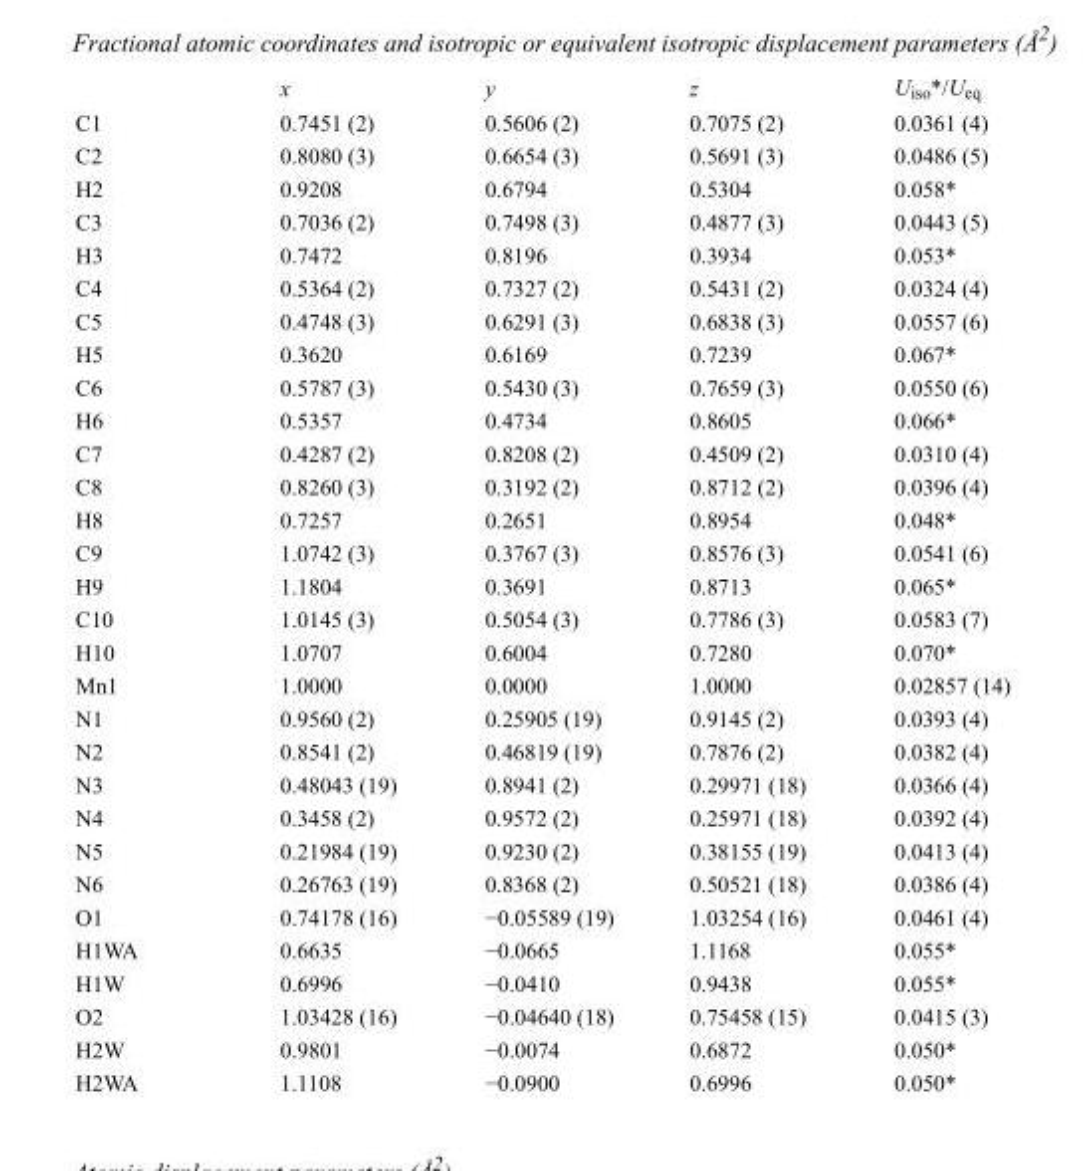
<table><thead><tr><td></td><td>x</td><td>y</td><td>z</td><td>U<sub>iso</sub>*/U<sub>eq</sub></td></tr></thead><tbody><tr><td>C1</td><td>0.7451 (2)</td><td>0.5606 (2)</td><td>0.7075 (2)</td><td>0.0361 (4)</td></tr><tr><td>C2</td><td>0.8080 (3)</td><td>0.6654 (3)</td><td>0.5691 (3)</td><td>0.0486 (5)</td></tr><tr><td>H2</td><td>0.9208</td><td>0.6794</td><td>0.5304</td><td>0.058*</td></tr><tr><td>C3</td><td>0.7036 (2)</td><td>0.7498 (3)</td><td>0.4877 (3)</td><td>0.0443 (5)</td></tr><tr><td>H3</td><td>0.7472</td><td>0.8196</td><td>0.3934</td><td>0.053*</td></tr><tr><td>C4</td><td>0.5364 (2)</td><td>0.7327 (2)</td><td>0.5431 (2)</td><td>0.0324 (4)</td></tr><tr><td>C5</td><td>0.4748 (3)</td><td>0.6291 (3)</td><td>0.6838 (3)</td><td>0.0557 (6)</td></tr><tr><td>H5</td><td>0.3620</td><td>0.6169</td><td>0.7239</td><td>0.067*</td></tr><tr><td>C6</td><td>0.5787 (3)</td><td>0.5430 (3)</td><td>0.7659 (3)</td><td>0.0550 (6)</td></tr><tr><td>H6</td><td>0.5357</td><td>0.4734</td><td>0.8605</td><td>0.066*</td></tr><tr><td>C7</td><td>0.4287 (2)</td><td>0.8208 (2)</td><td>0.4509 (2)</td><td>0.0310 (4)</td></tr><tr><td>C8</td><td>0.8260 (3)</td><td>0.3192 (2)</td><td>0.8712 (2)</td><td>0.0396 (4)</td></tr><tr><td>H8</td><td>0.7257</td><td>0.2651</td><td>0.8954</td><td>0.048*</td></tr><tr><td>C9</td><td>1.0742 (3)</td><td>0.3767 (3)</td><td>0.8576 (3)</td><td>0.0541 (6)</td></tr><tr><td>H9</td><td>1.1804</td><td>0.3691</td><td>0.8713</td><td>0.065*</td></tr><tr><td>C10</td><td>1.0145 (3)</td><td>0.5054 (3)</td><td>0.7786 (3)</td><td>0.0583 (7)</td></tr><tr><td>H10</td><td>1.0707</td><td>0.6004</td><td>0.7280</td><td>0.070*</td></tr><tr><td>Mn1</td><td>1.0000</td><td>0.0000</td><td>1.0000</td><td>0.02857 (14)</td></tr><tr><td>N1</td><td>0.9560 (2)</td><td>0.25905 (19)</td><td>0.9145 (2)</td><td>0.0393 (4)</td></tr><tr><td>N2</td><td>0.8541 (2)</td><td>0.46819 (19)</td><td>0.7876 (2)</td><td>0.0382 (4)</td></tr><tr><td>N3</td><td>0.48043 (19)</td><td>0.8941 (2)</td><td>0.29971 (18)</td><td>0.0366 (4)</td></tr><tr><td>N4</td><td>0.3458 (2)</td><td>0.9572 (2)</td><td>0.25971 (18)</td><td>0.0392 (4)</td></tr><tr><td>N5</td><td>0.21984 (19)</td><td>0.9230 (2)</td><td>0.38155 (19)</td><td>0.0413 (4)</td></tr><tr><td>N6</td><td>0.26763 (19)</td><td>0.8368 (2)</td><td>0.50521 (18)</td><td>0.0386 (4)</td></tr><tr><td>O1</td><td>0.74178 (16)</td><td>−0.05589 (19)</td><td>1.03254 (16)</td><td>0.0461 (4)</td></tr><tr><td>H1WA</td><td>0.6635</td><td>−0.0665</td><td>1.1168</td><td>0.055*</td></tr><tr><td>H1W</td><td>0.6996</td><td>−0.0410</td><td>0.9438</td><td>0.055*</td></tr><tr><td>O2</td><td>1.03428 (16)</td><td>−0.04640 (18)</td><td>0.75458 (15)</td><td>0.0415 (3)</td></tr><tr><td>H2W</td><td>0.9801</td><td>−0.0074</td><td>0.6872</td><td>0.050*</td></tr><tr><td>H2WA</td><td>1.1108</td><td>−0.0900</td><td>0.6996</td><td>0.050*</td></tr></tbody></table>